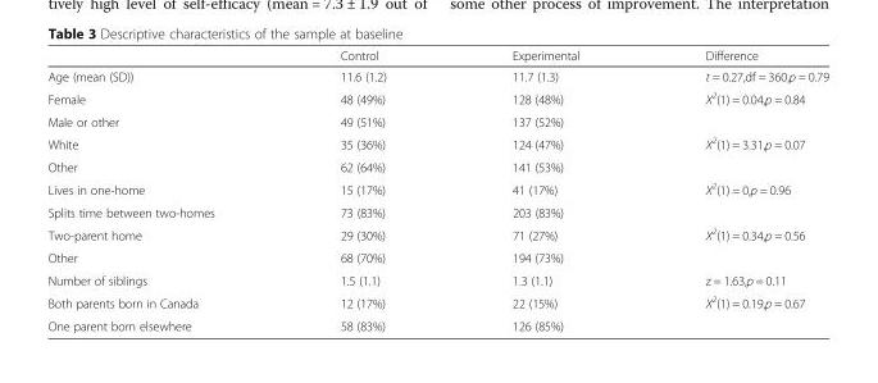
<table><thead><tr><td></td><td>Control</td><td>Experimental</td><td>Difference</td></tr></thead><tbody><tr><td>Age (mean (SD))</td><td>11.6 (1.2)</td><td>11.7 (1.3)</td><td>t = 0.27,df = 360,p = 0.79</td></tr><tr><td>Female</td><td>48 (49%)</td><td>128 (48%)</td><td>X<sup>2</sup>(1) = 0.04,p = 0.84</td></tr><tr><td>Male or other</td><td>49 (51%)</td><td>137 (52%)</td><td></td></tr><tr><td>White</td><td>35 (36%)</td><td>124 (47%)</td><td>X<sup>2</sup>(1) = 3.31,p = 0.07</td></tr><tr><td>Other</td><td>62 (64%)</td><td>141 (53%)</td><td></td></tr><tr><td>Lives in one-home</td><td>15 (17%)</td><td>41 (17%)</td><td>X<sup>2</sup>(1) = 0,p = 0.96</td></tr><tr><td>Splits time between two-homes</td><td>73 (83%)</td><td>203 (83%)</td><td></td></tr><tr><td>Two-parent home</td><td>29 (30%)</td><td>71 (27%)</td><td>X<sup>2</sup>(1) = 0.34,p = 0.56</td></tr><tr><td>Other</td><td>68 (70%)</td><td>194 (73%)</td><td></td></tr><tr><td>Number of siblings</td><td>1.5 (1.1)</td><td>1.3 (1.1)</td><td>z = 1.63,p = 0.11</td></tr><tr><td>Both parents born in Canada</td><td>12 (17%)</td><td>22 (15%)</td><td>X<sup>2</sup>(1) = 0.19,p = 0.67</td></tr><tr><td>One parent born elsewhere</td><td>58 (83%)</td><td>126 (85%)</td><td></td></tr></tbody></table>